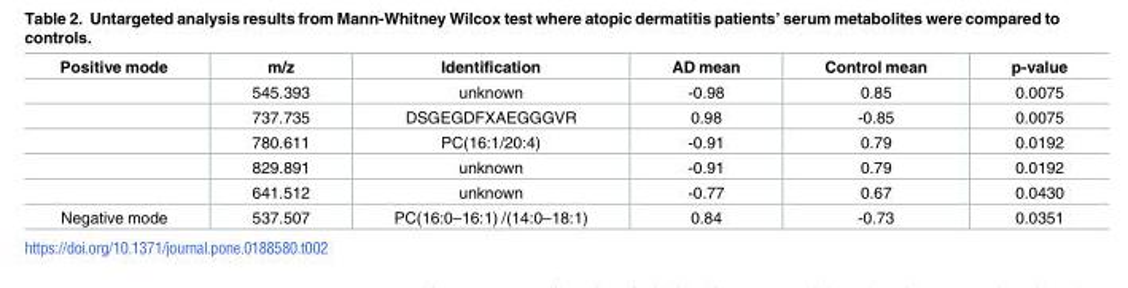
<table><thead><tr><td>Positive mode</td><td>m/z</td><td>Identification</td><td>AD mean</td><td>Control mean</td><td>p-value</td></tr></thead><tbody><tr><td></td><td>545.393</td><td>unknown</td><td>-0.98</td><td>0.85</td><td>0.0075</td></tr><tr><td></td><td>737.735</td><td>DSGEGDFXAEGGGVR</td><td>0.98</td><td>-0.85</td><td>0.0075</td></tr><tr><td></td><td>780.611</td><td>PC(16:1/20:4)</td><td>-0.91</td><td>0.79</td><td>0.0192</td></tr><tr><td></td><td>829.891</td><td>unknown</td><td>-0.91</td><td>0.79</td><td>0.0192</td></tr><tr><td></td><td>641.512</td><td>unknown</td><td>-0.77</td><td>0.67</td><td>0.0430</td></tr><tr><td>Negative mode</td><td>537.507</td><td>PC(16:0–16:1) /(14:0–18:1)</td><td>0.84</td><td>-0.73</td><td>0.0351</td></tr></tbody></table>